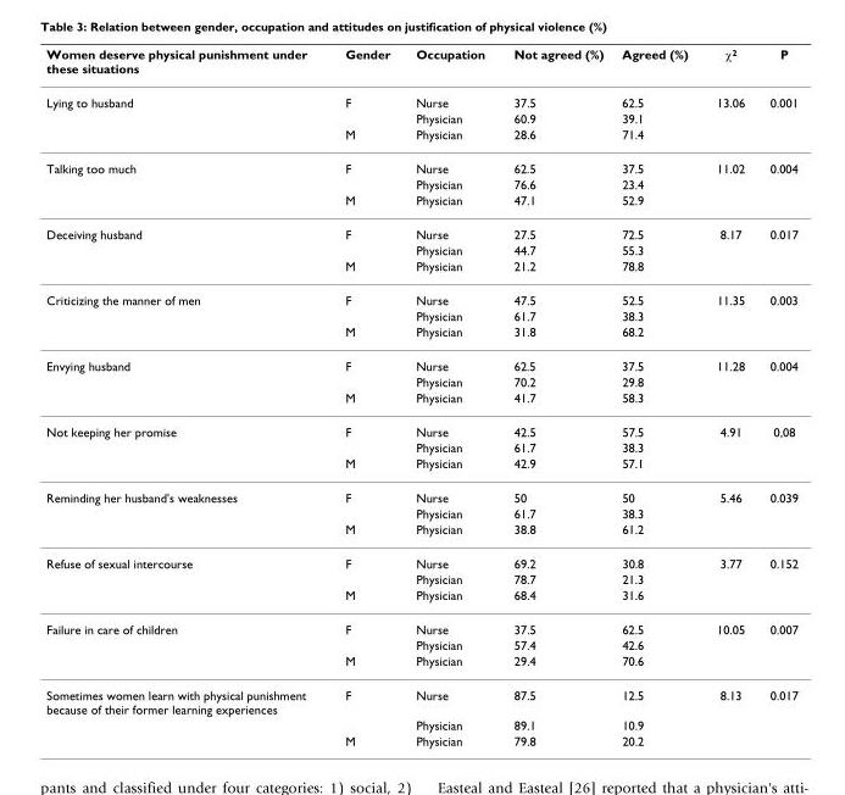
<table><thead><tr><td>Women deserve physical punishment under these situations</td><td>Gender</td><td>Occupation</td><td>Not agreed (%)</td><td>Agreed (%)</td><td>χ<sup>2</sup></td><td>P</td></tr></thead><tbody><tr><td rowspan="3">Lying to husband</td><td>F</td><td>Nurse</td><td>37.5</td><td>62.5</td><td>13.06</td><td>0.001</td></tr><tr><td></td><td>Physician</td><td>60.9</td><td>39.1</td><td></td><td></td></tr><tr><td>M</td><td>Physician</td><td>28.6</td><td>71.4</td><td></td><td></td></tr><tr><td rowspan="3">Talking too much</td><td>F</td><td>Nurse</td><td>62.5</td><td>37.5</td><td>11.02</td><td>0.004</td></tr><tr><td></td><td>Physician</td><td>76.6</td><td>23.4</td><td></td><td></td></tr><tr><td>M</td><td>Physician</td><td>47.1</td><td>52.9</td><td></td><td></td></tr><tr><td rowspan="3">Deceiving husband</td><td>F</td><td>Nurse</td><td>27.5</td><td>72.5</td><td>8.17</td><td>0.017</td></tr><tr><td></td><td>Physician</td><td>44.7</td><td>55.3</td><td></td><td></td></tr><tr><td>M</td><td>Physician</td><td>21.2</td><td>78.8</td><td></td><td></td></tr><tr><td rowspan="3">Criticizing the manner of men</td><td>F</td><td>Nurse</td><td>47.5</td><td>52.5</td><td>11.35</td><td>0.003</td></tr><tr><td></td><td>Physician</td><td>61.7</td><td>38.3</td><td></td><td></td></tr><tr><td>M</td><td>Physician</td><td>31.8</td><td>68.2</td><td></td><td></td></tr><tr><td rowspan="3">Envying husband</td><td>F</td><td>Nurse</td><td>62.5</td><td>37.5</td><td>11.28</td><td>0.004</td></tr><tr><td></td><td>Physician</td><td>70.2</td><td>29.8</td><td></td><td></td></tr><tr><td>M</td><td>Physician</td><td>41.7</td><td>58.3</td><td></td><td></td></tr><tr><td rowspan="3">Not keeping her promise</td><td>F</td><td>Nurse</td><td>42.5</td><td>57.5</td><td>4.91</td><td>0,08</td></tr><tr><td></td><td>Physician</td><td>61.7</td><td>38.3</td><td></td><td></td></tr><tr><td>M</td><td>Physician</td><td>42.9</td><td>57.1</td><td></td><td></td></tr><tr><td rowspan="3">Reminding her husband&#x27;s weaknesses</td><td>F</td><td>Nurse</td><td>50</td><td>50</td><td>5.46</td><td>0.039</td></tr><tr><td></td><td>Physician</td><td>61.7</td><td>38.3</td><td></td><td></td></tr><tr><td>M</td><td>Physician</td><td>38.8</td><td>61.2</td><td></td><td></td></tr><tr><td rowspan="3">Refuse of sexual intercourse</td><td>F</td><td>Nurse</td><td>69.2</td><td>30.8</td><td>3.77</td><td>0.152</td></tr><tr><td></td><td>Physician</td><td>78.7</td><td>21.3</td><td></td><td></td></tr><tr><td>M</td><td>Physician</td><td>68.4</td><td>31.6</td><td></td><td></td></tr><tr><td rowspan="3">Failure in care of children</td><td>F</td><td>Nurse</td><td>37.5</td><td>62.5</td><td>10.05</td><td>0.007</td></tr><tr><td></td><td>Physician</td><td>57.4</td><td>42.6</td><td></td><td></td></tr><tr><td>M</td><td>Physician</td><td>29.4</td><td>70.6</td><td></td><td></td></tr><tr><td rowspan="3">Sometimes women learn with physical punishment because of their former learning experiences</td><td>F</td><td>Nurse</td><td>87.5</td><td>12.5</td><td>8.13</td><td>0.017</td></tr><tr><td></td><td>Physician</td><td>89.1</td><td>10.9</td><td></td><td></td></tr><tr><td>M</td><td>Physician</td><td>79.8</td><td>20.2</td><td></td><td></td></tr></tbody></table>